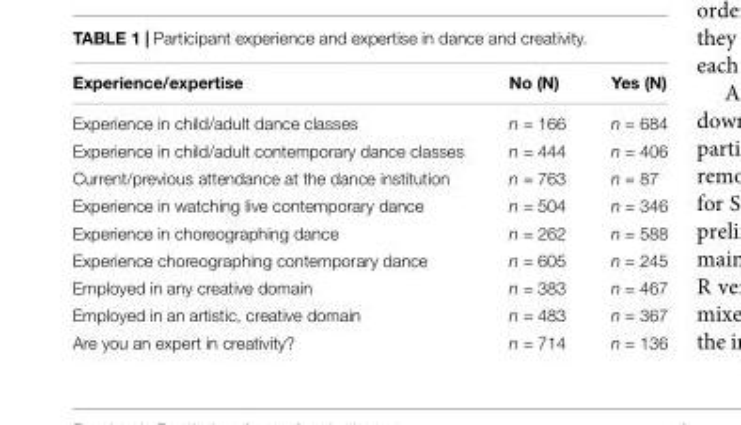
<table><thead><tr><td>Experience/expertise</td><td>No (N)</td><td>Yes (N)</td></tr></thead><tbody><tr><td>Experience in child/adult dance classes</td><td>n = 166</td><td>n = 684</td></tr><tr><td>Experience in child/adult contemporary dance classes</td><td>n = 444</td><td>n = 406</td></tr><tr><td>Current/previous attendance at the dance institution</td><td>n = 763</td><td>n = 87</td></tr><tr><td>Experience in watching live contemporary dance</td><td>n = 504</td><td>n = 346</td></tr><tr><td>Experience in choreographing dance</td><td>n = 262</td><td>n = 588</td></tr><tr><td>Experience choreographing contemporary dance</td><td>n = 605</td><td>n = 245</td></tr><tr><td>Employed in any creative domain</td><td>n = 383</td><td>n = 467</td></tr><tr><td>Employed in an artistic, creative domain</td><td>n = 483</td><td>n = 367</td></tr><tr><td>Are you an expert in creativity?</td><td>n = 714</td><td>n = 136</td></tr></tbody></table>